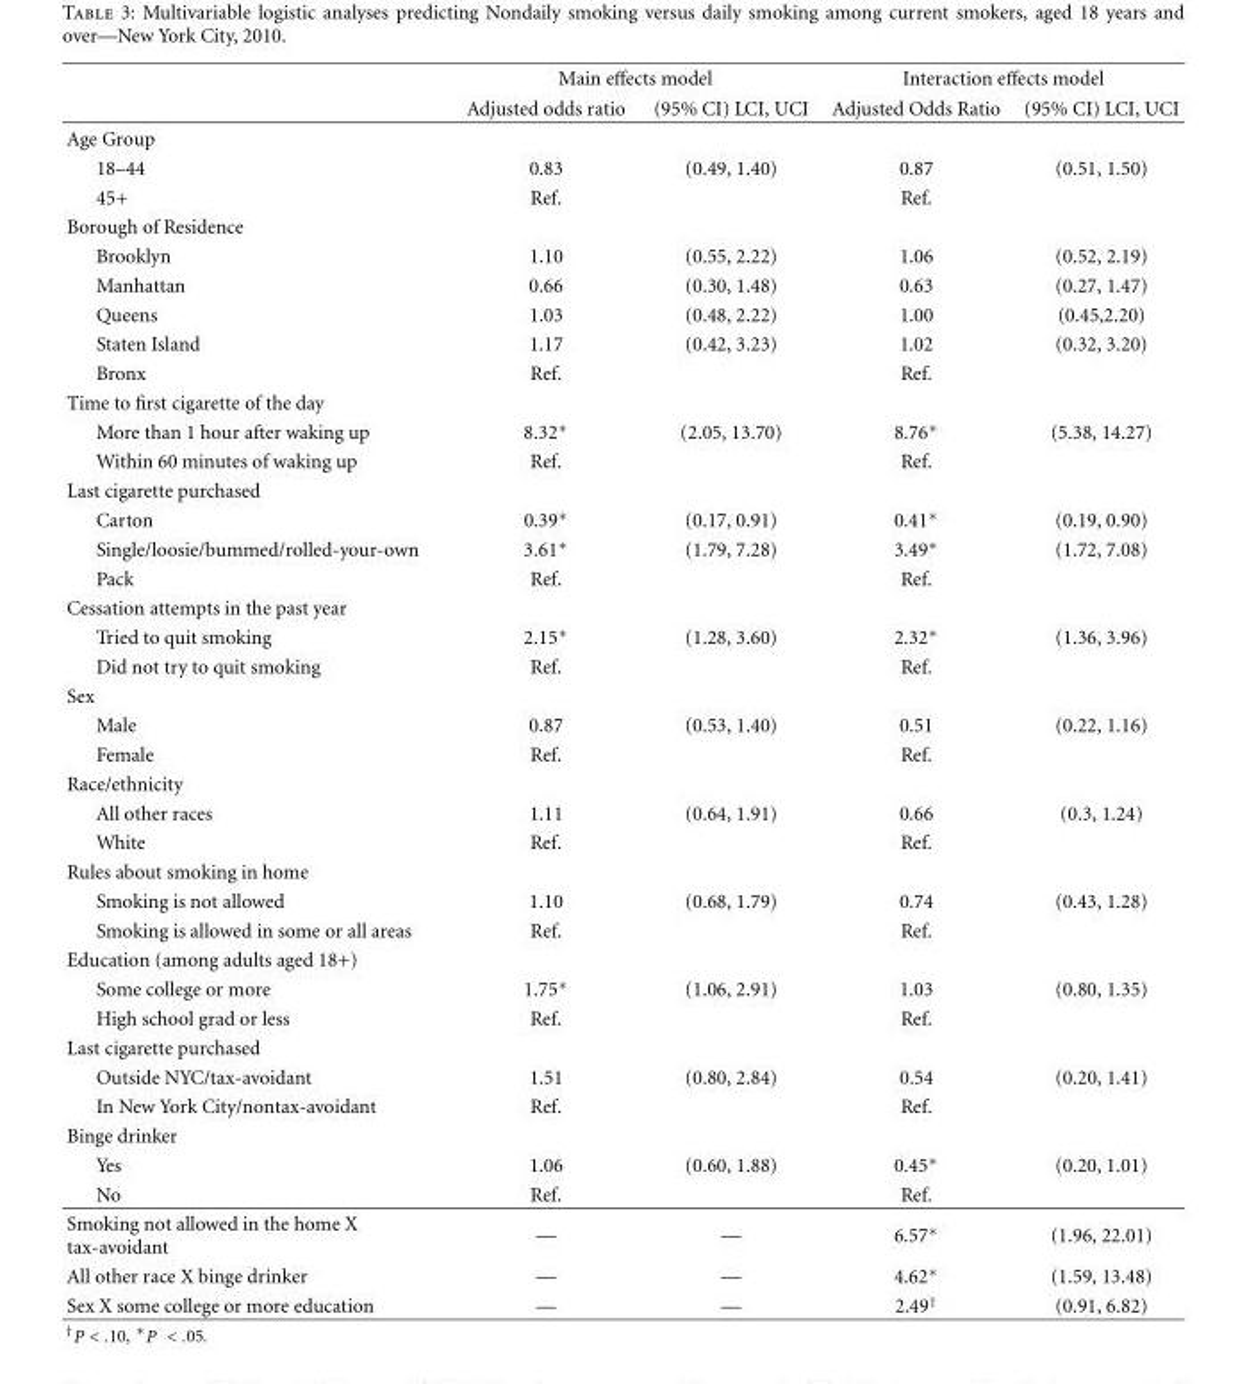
<table><thead><tr><td rowspan="2"></td><td colspan="2">Main effects model</td><td colspan="2">Interaction effects model</td></tr><tr><td>Adjusted odds ratio</td><td>(95% CI) LCI, UCI</td><td>Adjusted Odds Ratio</td><td>(95% CI) LCI, UCI</td></tr></thead><tbody><tr><td colspan="5">Age Group</td></tr><tr><td>18–44</td><td>0.83</td><td>(0.49, 1.40)</td><td>0.87</td><td>(0.51, 1.50)</td></tr><tr><td>45+</td><td>Ref.</td><td></td><td>Ref.</td><td></td></tr><tr><td colspan="5">Borough of Residence</td></tr><tr><td>Brooklyn</td><td>1.10</td><td>(0.55, 2.22)</td><td>1.06</td><td>(0.52, 2.19)</td></tr><tr><td>Manhattan</td><td>0.66</td><td>(0.30, 1.48)</td><td>0.63</td><td>(0.27, 1.47)</td></tr><tr><td>Queens</td><td>1.03</td><td>(0.48, 2.22)</td><td>1.00</td><td>(0.45,2.20)</td></tr><tr><td>Staten Island</td><td>1.17</td><td>(0.42, 3.23)</td><td>1.02</td><td>(0.32, 3.20)</td></tr><tr><td>Bronx</td><td>Ref.</td><td></td><td>Ref.</td><td></td></tr><tr><td colspan="5">Time to first cigarette of the day</td></tr><tr><td>More than 1 hour after waking up</td><td>8.32∗</td><td>(2.05, 13.70)</td><td>8.76∗</td><td>(5.38, 14.27)</td></tr><tr><td>Within 60 minutes of waking up</td><td>Ref.</td><td></td><td>Ref.</td><td></td></tr><tr><td colspan="5">Last cigarette purchased</td></tr><tr><td>Carton</td><td>0.39∗</td><td>(0.17, 0.91)</td><td>0.41∗</td><td>(0.19, 0.90)</td></tr><tr><td>Single/loosie/bummed/rolled-your-own</td><td>3.61∗</td><td>(1.79, 7.28)</td><td>3.49∗</td><td>(1.72, 7.08)</td></tr><tr><td>Pack</td><td>Ref.</td><td></td><td>Ref.</td><td></td></tr><tr><td colspan="5">Cessation attempts in the past year</td></tr><tr><td>Tried to quit smoking</td><td>2.15∗</td><td>(1.28, 3.60)</td><td>2.32∗</td><td>(1.36, 3.96)</td></tr><tr><td>Did not try to quit smoking</td><td>Ref.</td><td></td><td>Ref.</td><td></td></tr><tr><td colspan="5">Sex</td></tr><tr><td>Male</td><td>0.87</td><td>(0.53, 1.40)</td><td>0.51</td><td>(0.22, 1.16)</td></tr><tr><td>Female</td><td>Ref.</td><td></td><td>Ref.</td><td></td></tr><tr><td colspan="5">Race/ethnicity</td></tr><tr><td>All other races</td><td>1.11</td><td>(0.64, 1.91)</td><td>0.66</td><td>(0.3, 1.24)</td></tr><tr><td>White</td><td>Ref.</td><td></td><td>Ref.</td><td></td></tr><tr><td colspan="5">Rules about smoking in home</td></tr><tr><td>Smoking is not allowed</td><td>1.10</td><td>(0.68, 1.79)</td><td>0.74</td><td>(0.43, 1.28)</td></tr><tr><td>Smoking is allowed in some or all areas</td><td>Ref.</td><td></td><td>Ref.</td><td></td></tr><tr><td colspan="5">Education (among adults aged 18+)</td></tr><tr><td>Some college or more</td><td>1.75∗</td><td>(1.06, 2.91)</td><td>1.03</td><td>(0.80, 1.35)</td></tr><tr><td>High school grad or less</td><td>Ref.</td><td></td><td>Ref.</td><td></td></tr><tr><td colspan="5">Last cigarette purchased</td></tr><tr><td>Outside NYC/tax-avoidant</td><td>1.51</td><td>(0.80, 2.84)</td><td>0.54</td><td>(0.20, 1.41)</td></tr><tr><td>In New York City/nontax-avoidant</td><td>Ref.</td><td></td><td>Ref.</td><td></td></tr><tr><td colspan="5">Binge drinker</td></tr><tr><td>Yes</td><td>1.06</td><td>(0.60, 1.88)</td><td>0.45∗</td><td>(0.20, 1.01)</td></tr><tr><td>No</td><td>Ref.</td><td></td><td>Ref.</td><td></td></tr><tr><td>Smoking not allowed in the home X tax-avoidant</td><td>—</td><td>—</td><td>6.57∗</td><td>(1.96, 22.01)</td></tr><tr><td>All other race X binge drinker</td><td>—</td><td>—</td><td>4.62∗</td><td>(1.59, 13.48)</td></tr><tr><td>Sex X some college or more education</td><td>—</td><td>—</td><td>2.49<sup>†</sup></td><td>(0.91, 6.82)</td></tr></tbody></table>